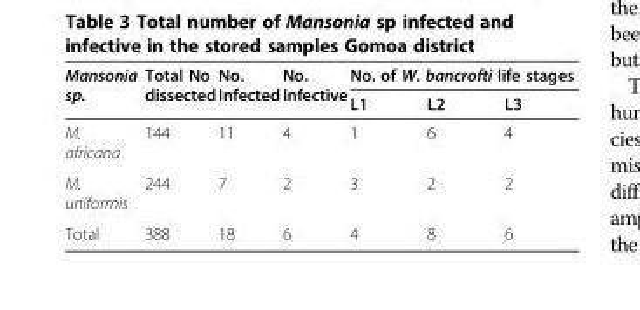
<table><thead><tr><td rowspan="2">Mansonia sp.</td><td rowspan="2">Total No dissected</td><td rowspan="2">No. Infected</td><td rowspan="2">No. Infective</td><td colspan="3">No. of W. bancrofti life stages</td></tr><tr><td>L1</td><td>L2</td><td>L3</td></tr></thead><tbody><tr><td>M. africana</td><td>144</td><td>11</td><td>4</td><td>1</td><td>6</td><td>4</td></tr><tr><td>M. uniformis</td><td>244</td><td>7</td><td>2</td><td>3</td><td>2</td><td>2</td></tr><tr><td>Total</td><td>388</td><td>18</td><td>6</td><td>4</td><td>8</td><td>6</td></tr></tbody></table>